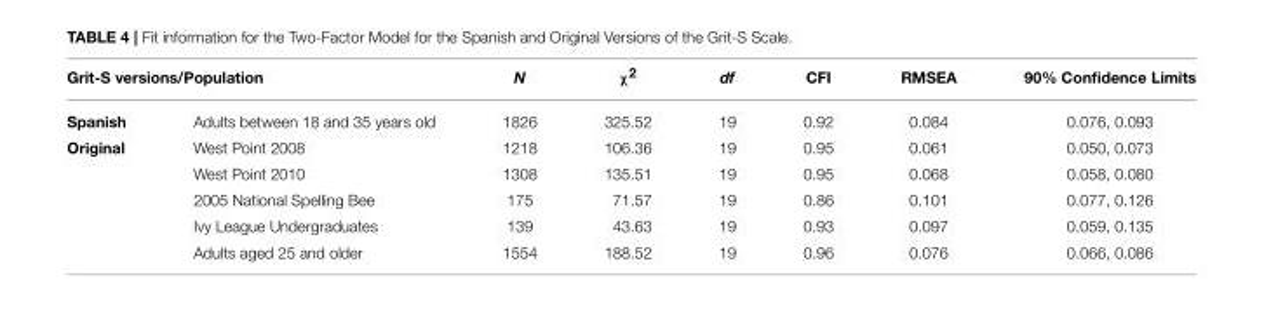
<table><thead><tr><td colspan="2">Grit-S versions/Population</td><td rowspan="2">N 1826</td><td rowspan="2">χ<sup>2</sup> 325.52</td><td rowspan="2">df 19</td><td rowspan="2">CFI 0.92</td><td rowspan="2">RMSEA 0.084</td><td rowspan="2">90% Confidence Limits 0.076, 0.093</td></tr><tr><td>Spanish</td><td>Adults between 18 and 35 years old</td></tr></thead><tbody><tr><td rowspan="5">Original</td><td>West Point 2008</td><td>1218</td><td>106.36</td><td>19</td><td>0.95</td><td>0.061</td><td>0.050, 0.073</td></tr><tr><td>West Point 2010</td><td>1308</td><td>135.51</td><td>19</td><td>0.95</td><td>0.068</td><td>0.058, 0.080</td></tr><tr><td>2005 National Spelling Bee</td><td>175</td><td>71.57</td><td>19</td><td>0.86</td><td>0.101</td><td>0.077, 0.126</td></tr><tr><td>Ivy League Undergraduates</td><td>139</td><td>43.63</td><td>19</td><td>0.93</td><td>0.097</td><td>0.059, 0.135</td></tr><tr><td>Adults aged 25 and older</td><td>1554</td><td>188.52</td><td>19</td><td>0.96</td><td>0.076</td><td>0.066, 0.086</td></tr></tbody></table>